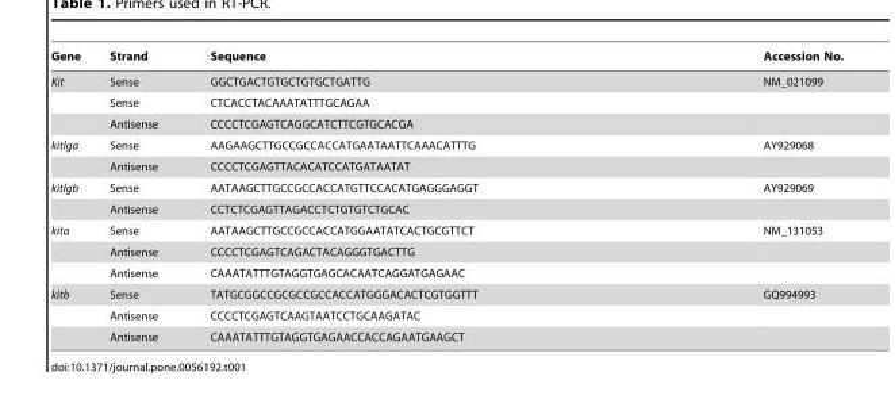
<table><thead><tr><td>Gene</td><td>Strand</td><td>Sequence</td><td>Accession No.</td></tr></thead><tbody><tr><td rowspan="3">Kit</td><td>Sense</td><td>GGCTGACTGTGCTGTGCTGATTG</td><td>NM_021099</td></tr><tr><td>Sense</td><td>CTCACCTACAAATATTTGCAGAA</td><td></td></tr><tr><td>Antisense</td><td>CCCCTCGAGTCAGGCATCTTCGTGCACGA</td><td></td></tr><tr><td rowspan="2">kitlga</td><td>Sense</td><td>AAGAAGCTTGCCGCCACCATGAATAATTCAAACATTTG</td><td>AY929068</td></tr><tr><td>Antisense</td><td>CCCCTCGAGTTACACATCCATGATAATAT</td><td></td></tr><tr><td rowspan="2">kitlgb</td><td>Sense</td><td>AATAAGCTTGCCGCCACCATGTTCCACATGAGGGAGGT</td><td>AY929069</td></tr><tr><td>Antisense</td><td>CCTCTCGAGTTAGACCTCTGTGTCTGCAC</td><td></td></tr><tr><td rowspan="3">kita</td><td>Sense</td><td>AATAAGCTTGCCGCCACCATGGAATATCACTGCGTTCT</td><td>NM_131053</td></tr><tr><td>Antisense</td><td>CCCCTCGAGTCAGACTACAGGGTGACTTG</td><td></td></tr><tr><td>Antisense</td><td>CAAATATTTGTAGGTGAGCACAATCAGGATGAGAAC</td><td></td></tr><tr><td rowspan="3">kitb</td><td>Sense</td><td>TATGCGGCCGCGCCGCCACCATGGGACACTCGTGGTTT</td><td>GQ994993</td></tr><tr><td>Antisense</td><td>CCCCTCGAGTCAAGTAATCCTGCAAGATAC</td><td></td></tr><tr><td>Antisense</td><td>CAAATATTTGTAGGTGAGAACCACCAGAATGAAGCT</td><td></td></tr></tbody></table>